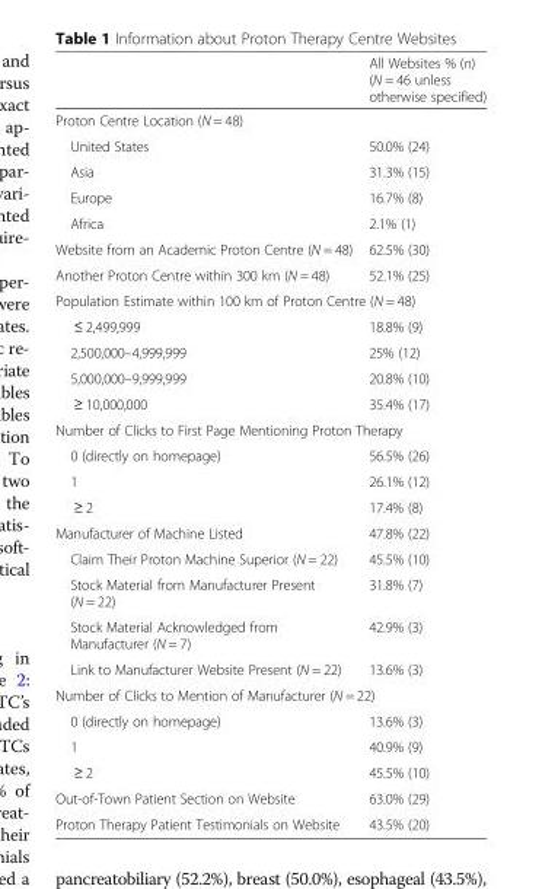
<table><thead><tr><td></td><td>All Websites % (n) (N = 46 unless otherwise specified)</td></tr></thead><tbody><tr><td colspan="2">Proton Centre Location (N = 48)</td></tr><tr><td>United States</td><td>50.0% (24)</td></tr><tr><td>Asia</td><td>31.3% (15)</td></tr><tr><td>Europe</td><td>16.7% (8)</td></tr><tr><td>Africa</td><td>2.1% (1)</td></tr><tr><td>Website from an Academic Proton Centre (N = 48)</td><td>62.5% (30)</td></tr><tr><td>Another Proton Centre within 300 km (N = 48)</td><td>52.1% (25)</td></tr><tr><td colspan="2">Population Estimate within 100 km of Proton Centre (N = 48)</td></tr><tr><td>≤ 2,499,999</td><td>18.8% (9)</td></tr><tr><td>2,500,000–4,999,999</td><td>25% (12)</td></tr><tr><td>5,000,000–9,999,999</td><td>20.8% (10)</td></tr><tr><td>≥ 10,000,000</td><td>35.4% (17)</td></tr><tr><td colspan="2">Number of Clicks to First Page Mentioning Proton Therapy</td></tr><tr><td>0 (directly on homepage)</td><td>56.5% (26)</td></tr><tr><td>1</td><td>26.1% (12)</td></tr><tr><td>≥ 2</td><td>17.4% (8)</td></tr><tr><td>Manufacturer of Machine Listed</td><td>47.8% (22)</td></tr><tr><td>Claim Their Proton Machine Superior (N = 22)</td><td>45.5% (10)</td></tr><tr><td>Stock Material from Manufacturer Present (N = 22)</td><td>31.8% (7)</td></tr><tr><td>Stock Material Acknowledged from Manufacturer (N = 7)</td><td>42.9% (3)</td></tr><tr><td>Link to Manufacturer Website Present (N = 22)</td><td>13.6% (3)</td></tr><tr><td colspan="2">Number of Clicks to Mention of Manufacturer (N = 22)</td></tr><tr><td>0 (directly on homepage)</td><td>13.6% (3)</td></tr><tr><td>1</td><td>40.9% (9)</td></tr><tr><td>≥ 2</td><td>45.5% (10)</td></tr><tr><td>Out-of-Town Patient Section on Website</td><td>63.0% (29)</td></tr><tr><td>Proton Therapy Patient Testimonials on Website</td><td>43.5% (20)</td></tr></tbody></table>